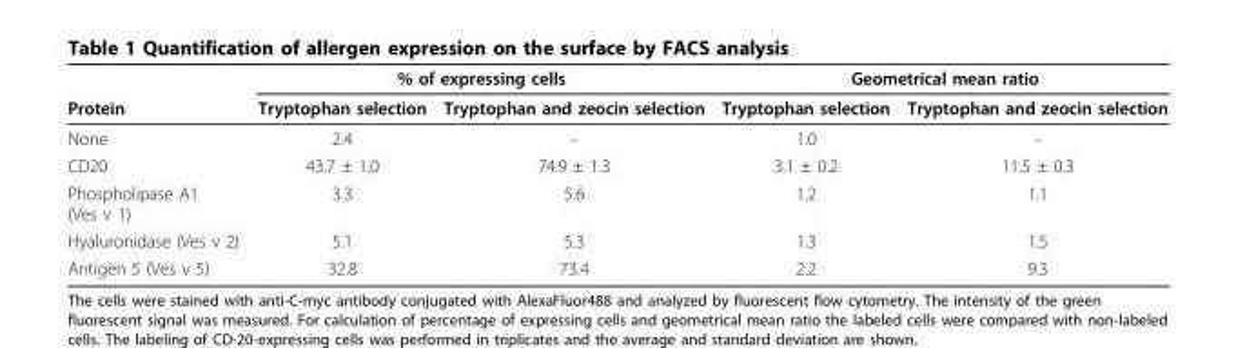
<table><thead><tr><td rowspan="2">Protein</td><td colspan="2">% of expressing cells</td><td colspan="2">Geometrical mean ratio</td></tr><tr><td>Tryptophan selection</td><td>Tryptophan and zeocin selection</td><td>Tryptophan selection</td><td>Tryptophan and zeocin selection</td></tr></thead><tbody><tr><td>None</td><td>2.4</td><td>-</td><td>1.0</td><td>-</td></tr><tr><td>CD20</td><td>43.7 ± 1.0</td><td>74.9 ± 1.3</td><td>3.1 ± 0.2</td><td>11.5 ± 0.3</td></tr><tr><td>Phospholipase A1 (Ves v 1)</td><td>3.3</td><td>5.6</td><td>1.2</td><td>1.1</td></tr><tr><td>Hyaluronidase (Ves v 2)</td><td>5.1</td><td>5.3</td><td>1.3</td><td>1.5</td></tr><tr><td>Antigen 5 (Ves v 5)</td><td>32.8</td><td>73.4</td><td>2.2</td><td>9.3</td></tr></tbody></table>